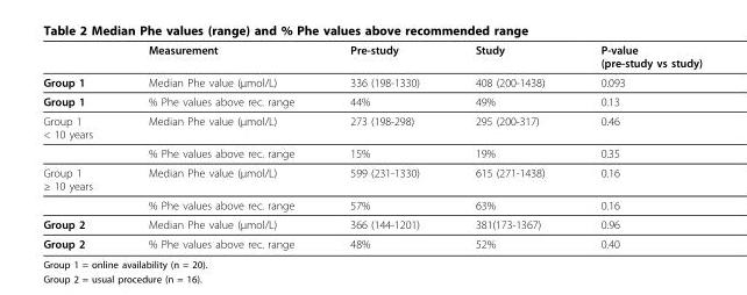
<table><thead><tr><td></td><td>Measurement</td><td>Pre-study</td><td>Study</td><td>P-value (pre-study vs study)</td></tr></thead><tbody><tr><td>Group 1</td><td>Median Phe value (μmol/L)</td><td>336 (198-1330)</td><td>408 (200-1438)</td><td>0.093</td></tr><tr><td>Group 1</td><td>% Phe values above rec. range</td><td>44%</td><td>49%</td><td>0.13</td></tr><tr><td rowspan="2">Group 1 &lt; 10 years</td><td>Median Phe value (μmol/L)</td><td>273 (198-298)</td><td>295 (200-317)</td><td>0.46</td></tr><tr><td>% Phe values above rec. range</td><td>15%</td><td>19%</td><td>0.35</td></tr><tr><td rowspan="2">Group 1 ≥ 10 years</td><td>Median Phe value (μmol/L)</td><td>599 (231-1330)</td><td>615 (271-1438)</td><td>0.16</td></tr><tr><td>% Phe values above rec. range</td><td>57%</td><td>63%</td><td>0.16</td></tr><tr><td>Group 2</td><td>Median Phe value (μmol/L)</td><td>366 (144-1201)</td><td>381(173-1367)</td><td>0.96</td></tr><tr><td>Group 2</td><td>% Phe values above rec. range</td><td>48%</td><td>52%</td><td>0.40</td></tr></tbody></table>